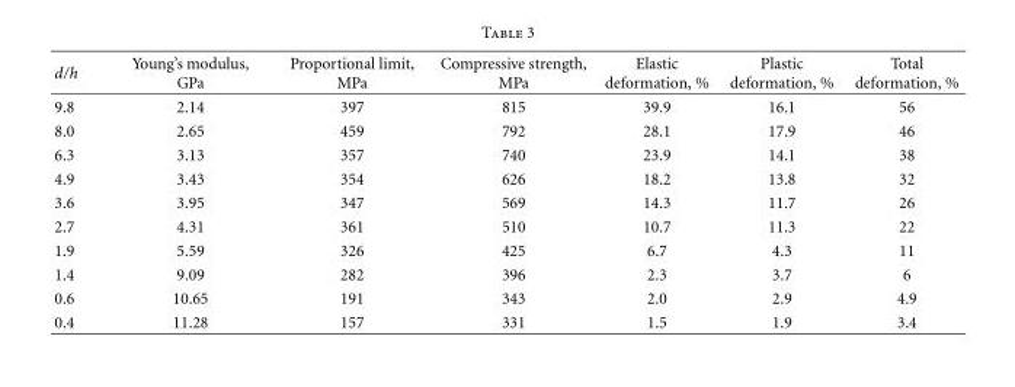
<table><thead><tr><td>d/h</td><td>Young’s modulus, GPa</td><td>Proportional limit, MPa</td><td>Compressive strength, MPa</td><td>Elastic deformation, %</td><td>Plastic deformation, %</td><td>Total deformation, %</td></tr></thead><tbody><tr><td>9.8</td><td>2.14</td><td>397</td><td>815</td><td>39.9</td><td>16.1</td><td>56</td></tr><tr><td>8.0</td><td>2.65</td><td>459</td><td>792</td><td>28.1</td><td>17.9</td><td>46</td></tr><tr><td>6.3</td><td>3.13</td><td>357</td><td>740</td><td>23.9</td><td>14.1</td><td>38</td></tr><tr><td>4.9</td><td>3.43</td><td>354</td><td>626</td><td>18.2</td><td>13.8</td><td>32</td></tr><tr><td>3.6</td><td>3.95</td><td>347</td><td>569</td><td>14.3</td><td>11.7</td><td>26</td></tr><tr><td>2.7</td><td>4.31</td><td>361</td><td>510</td><td>10.7</td><td>11.3</td><td>22</td></tr><tr><td>1.9</td><td>5.59</td><td>326</td><td>425</td><td>6.7</td><td>4.3</td><td>11</td></tr><tr><td>1.4</td><td>9.09</td><td>282</td><td>396</td><td>2.3</td><td>3.7</td><td>6</td></tr><tr><td>0.6</td><td>10.65</td><td>191</td><td>343</td><td>2.0</td><td>2.9</td><td>4.9</td></tr><tr><td>0.4</td><td>11.28</td><td>157</td><td>331</td><td>1.5</td><td>1.9</td><td>3.4</td></tr></tbody></table>